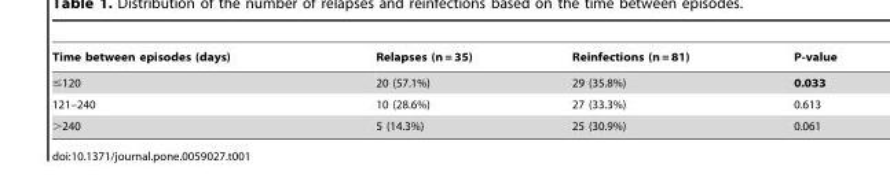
<table><thead><tr><td>Time between episodes (days)</td><td>Relapses (n = 35)</td><td>Reinfections (n = 81)</td><td>P-value</td></tr></thead><tbody><tr><td>≤120</td><td>20 (57.1%)</td><td>29 (35.8%)</td><td>0.033</td></tr><tr><td>121–240</td><td>10 (28.6%)</td><td>27 (33.3%)</td><td>0.613</td></tr><tr><td>&gt;240</td><td>5 (14.3%)</td><td>25 (30.9%)</td><td>0.061</td></tr></tbody></table>